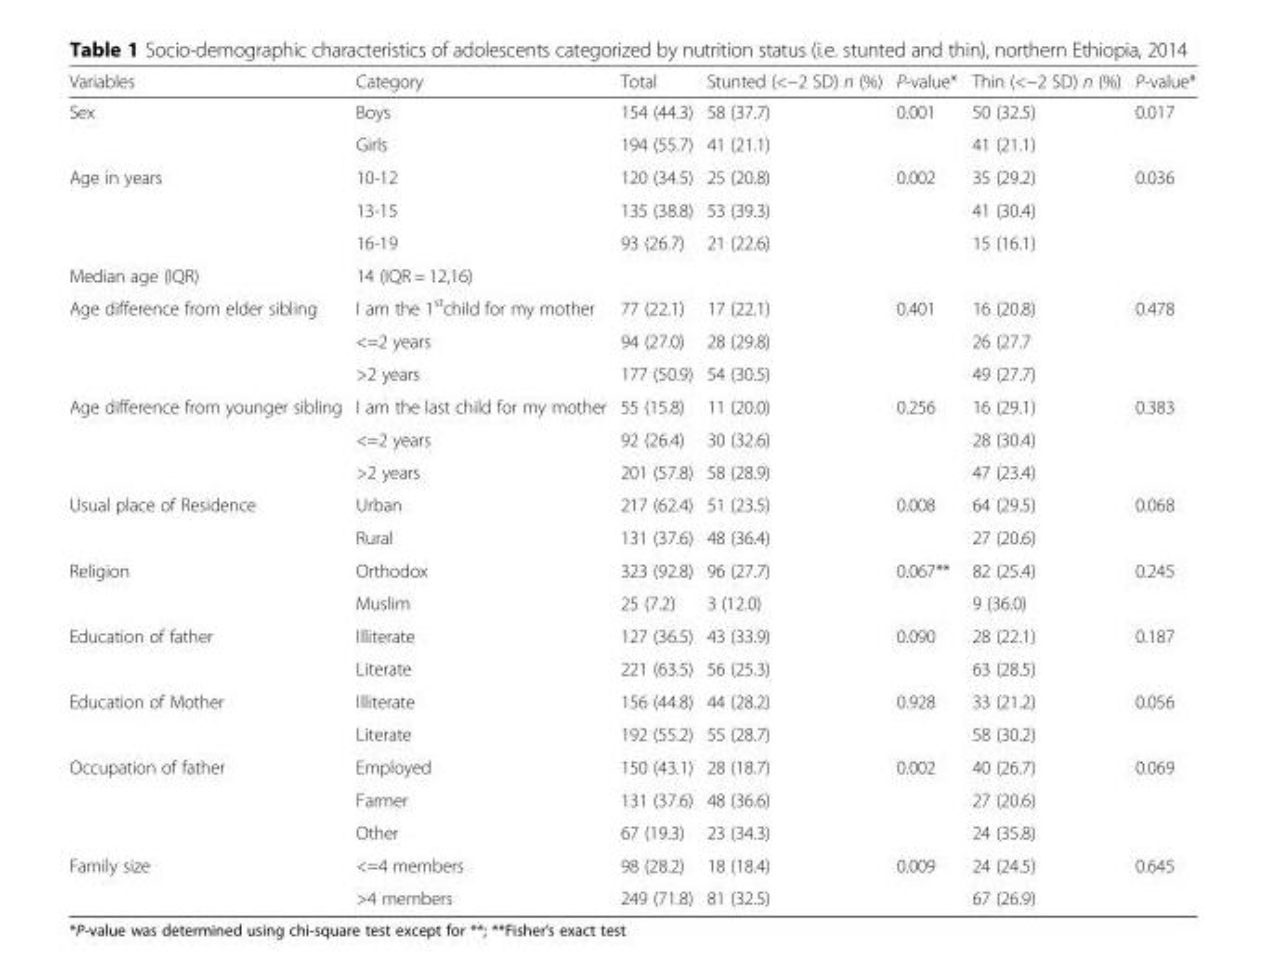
<table><thead><tr><td>Variables</td><td>Category</td><td>Total</td><td>Stunted (&lt;−2 SD) n (%)</td><td>P-value*</td><td>Thin (&lt;−2 SD) n (%)</td><td>P-value*</td></tr></thead><tbody><tr><td rowspan="2">Sex</td><td>Boys</td><td>154 (44.3)</td><td>58 (37.7)</td><td>0.001</td><td>50 (32.5)</td><td>0.017</td></tr><tr><td>Girls</td><td>194 (55.7)</td><td>41 (21.1)</td><td></td><td>41 (21.1)</td><td></td></tr><tr><td rowspan="3">Age in years</td><td>10-12</td><td>120 (34.5)</td><td>25 (20.8)</td><td>0.002</td><td>35 (29.2)</td><td>0.036</td></tr><tr><td>13-15</td><td>135 (38.8)</td><td>53 (39.3)</td><td></td><td>41 (30.4)</td><td></td></tr><tr><td>16-19</td><td>93 (26.7)</td><td>21 (22.6)</td><td></td><td>15 (16.1)</td><td></td></tr><tr><td>Median age (IQR)</td><td>14 (IQR = 12,16)</td><td></td><td></td><td></td><td></td><td></td></tr><tr><td rowspan="3">Age difference from elder sibling</td><td>I am the 1<sup>st</sup>child for my mother</td><td>77 (22.1)</td><td>17 (22.1)</td><td>0.401</td><td>16 (20.8)</td><td>0.478</td></tr><tr><td>&lt;=2 years</td><td>94 (27.0)</td><td>28 (29.8)</td><td></td><td>26 (27.7</td><td></td></tr><tr><td>&gt;2 years</td><td>177 (50.9)</td><td>54 (30.5)</td><td></td><td>49 (27.7)</td><td></td></tr><tr><td rowspan="3">Age difference from younger sibling</td><td>I am the last child for my mother</td><td>55 (15.8)</td><td>11 (20.0)</td><td>0.256</td><td>16 (29.1)</td><td>0.383</td></tr><tr><td>&lt;=2 years</td><td>92 (26.4)</td><td>30 (32.6)</td><td></td><td>28 (30.4)</td><td></td></tr><tr><td>&gt;2 years</td><td>201 (57.8)</td><td>58 (28.9)</td><td></td><td>47 (23.4)</td><td></td></tr><tr><td rowspan="2">Usual place of Residence</td><td>Urban</td><td>217 (62.4)</td><td>51 (23.5)</td><td>0.008</td><td>64 (29.5)</td><td>0.068</td></tr><tr><td>Rural</td><td>131 (37.6)</td><td>48 (36.4)</td><td></td><td>27 (20.6)</td><td></td></tr><tr><td rowspan="2">Religion</td><td>Orthodox</td><td>323 (92.8)</td><td>96 (27.7)</td><td>0.067**</td><td>82 (25.4)</td><td>0.245</td></tr><tr><td>Muslim</td><td>25 (7.2)</td><td>3 (12.0)</td><td></td><td>9 (36.0)</td><td></td></tr><tr><td rowspan="2">Education of father</td><td>Illiterate</td><td>127 (36.5)</td><td>43 (33.9)</td><td>0.090</td><td>28 (22.1)</td><td>0.187</td></tr><tr><td>Literate</td><td>221 (63.5)</td><td>56 (25.3)</td><td></td><td>63 (28.5)</td><td></td></tr><tr><td rowspan="2">Education of Mother</td><td>Illiterate</td><td>156 (44.8)</td><td>44 (28.2)</td><td>0.928</td><td>33 (21.2)</td><td>0.056</td></tr><tr><td>Literate</td><td>192 (55.2)</td><td>55 (28.7)</td><td></td><td>58 (30.2)</td><td></td></tr><tr><td rowspan="3">Occupation of father</td><td>Employed</td><td>150 (43.1)</td><td>28 (18.7)</td><td>0.002</td><td>40 (26.7)</td><td>0.069</td></tr><tr><td>Farmer</td><td>131 (37.6)</td><td>48 (36.6)</td><td></td><td>27 (20.6)</td><td></td></tr><tr><td>Other</td><td>67 (19.3)</td><td>23 (34.3)</td><td></td><td>24 (35.8)</td><td></td></tr><tr><td rowspan="2">Family size</td><td>&lt;=4 members</td><td>98 (28.2)</td><td>18 (18.4)</td><td>0.009</td><td>24 (24.5)</td><td>0.645</td></tr><tr><td>&gt;4 members</td><td>249 (71.8)</td><td>81 (32.5)</td><td></td><td>67 (26.9)</td><td></td></tr></tbody></table>